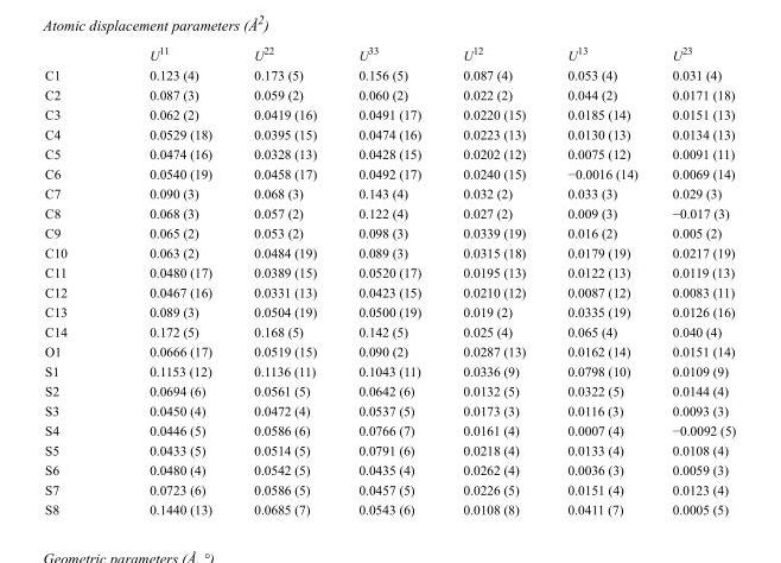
<table><thead><tr><td></td><td>U<sup>11</sup></td><td>U<sup>22</sup></td><td>U<sup>33</sup></td><td>U<sup>12</sup></td><td>U<sup>13</sup></td><td>U<sup>23</sup></td></tr></thead><tbody><tr><td>C1</td><td>0.123 (4)</td><td>0.173 (5)</td><td>0.156 (5)</td><td>0.087 (4)</td><td>0.053 (4)</td><td>0.031 (4)</td></tr><tr><td>C2</td><td>0.087 (3)</td><td>0.059 (2)</td><td>0.060 (2)</td><td>0.022 (2)</td><td>0.044 (2)</td><td>0.0171 (18)</td></tr><tr><td>C3</td><td>0.062 (2)</td><td>0.0419 (16)</td><td>0.0491 (17)</td><td>0.0220 (15)</td><td>0.0185 (14)</td><td>0.0151 (13)</td></tr><tr><td>C4</td><td>0.0529 (18)</td><td>0.0395 (15)</td><td>0.0474 (16)</td><td>0.0223 (13)</td><td>0.0130 (13)</td><td>0.0134 (13)</td></tr><tr><td>C5</td><td>0.0474 (16)</td><td>0.0328 (13)</td><td>0.0428 (15)</td><td>0.0202 (12)</td><td>0.0075 (12)</td><td>0.0091 (11)</td></tr><tr><td>C6</td><td>0.0540 (19)</td><td>0.0458 (17)</td><td>0.0492 (17)</td><td>0.0240 (15)</td><td>−0.0016 (14)</td><td>0.0069 (14)</td></tr><tr><td>C7</td><td>0.090 (3)</td><td>0.068 (3)</td><td>0.143 (4)</td><td>0.032 (2)</td><td>0.033 (3)</td><td>0.029 (3)</td></tr><tr><td>C8</td><td>0.068 (3)</td><td>0.057 (2)</td><td>0.122 (4)</td><td>0.027 (2)</td><td>0.009 (3)</td><td>−0.017 (3)</td></tr><tr><td>C9</td><td>0.065 (2)</td><td>0.053 (2)</td><td>0.098 (3)</td><td>0.0339 (19)</td><td>0.016 (2)</td><td>0.005 (2)</td></tr><tr><td>C10</td><td>0.063 (2)</td><td>0.0484 (19)</td><td>0.089 (3)</td><td>0.0315 (18)</td><td>0.0179 (19)</td><td>0.0217 (19)</td></tr><tr><td>C11</td><td>0.0480 (17)</td><td>0.0389 (15)</td><td>0.0520 (17)</td><td>0.0195 (13)</td><td>0.0122 (13)</td><td>0.0119 (13)</td></tr><tr><td>C12</td><td>0.0467 (16)</td><td>0.0331 (13)</td><td>0.0423 (15)</td><td>0.0210 (12)</td><td>0.0087 (12)</td><td>0.0083 (11)</td></tr><tr><td>C13</td><td>0.089 (3)</td><td>0.0504 (19)</td><td>0.0500 (19)</td><td>0.019 (2)</td><td>0.0335 (19)</td><td>0.0126 (16)</td></tr><tr><td>C14</td><td>0.172 (5)</td><td>0.168 (5)</td><td>0.142 (5)</td><td>0.025 (4)</td><td>0.065 (4)</td><td>0.040 (4)</td></tr><tr><td>O1</td><td>0.0666 (17)</td><td>0.0519 (15)</td><td>0.090 (2)</td><td>0.0287 (13)</td><td>0.0162 (14)</td><td>0.0151 (14)</td></tr><tr><td>S1</td><td>0.1153 (12)</td><td>0.1136 (11)</td><td>0.1043 (11)</td><td>0.0336 (9)</td><td>0.0798 (10)</td><td>0.0109 (9)</td></tr><tr><td>S2</td><td>0.0694 (6)</td><td>0.0561 (5)</td><td>0.0642 (6)</td><td>0.0132 (5)</td><td>0.0322 (5)</td><td>0.0144 (4)</td></tr><tr><td>S3</td><td>0.0450 (4)</td><td>0.0472 (4)</td><td>0.0537 (5)</td><td>0.0173 (3)</td><td>0.0116 (3)</td><td>0.0093 (3)</td></tr><tr><td>S4</td><td>0.0446 (5)</td><td>0.0586 (6)</td><td>0.0766 (7)</td><td>0.0161 (4)</td><td>0.0007 (4)</td><td>−0.0092 (5)</td></tr><tr><td>S5</td><td>0.0433 (5)</td><td>0.0514 (5)</td><td>0.0791 (6)</td><td>0.0218 (4)</td><td>0.0133 (4)</td><td>0.0108 (4)</td></tr><tr><td>S6</td><td>0.0480 (4)</td><td>0.0542 (5)</td><td>0.0435 (4)</td><td>0.0262 (4)</td><td>0.0036 (3)</td><td>0.0059 (3)</td></tr><tr><td>S7</td><td>0.0723 (6)</td><td>0.0586 (5)</td><td>0.0457 (5)</td><td>0.0226 (5)</td><td>0.0151 (4)</td><td>0.0123 (4)</td></tr><tr><td>S8</td><td>0.1440 (13)</td><td>0.0685 (7)</td><td>0.0543 (6)</td><td>0.0108 (8)</td><td>0.0411 (7)</td><td>0.0005 (5)</td></tr></tbody></table>